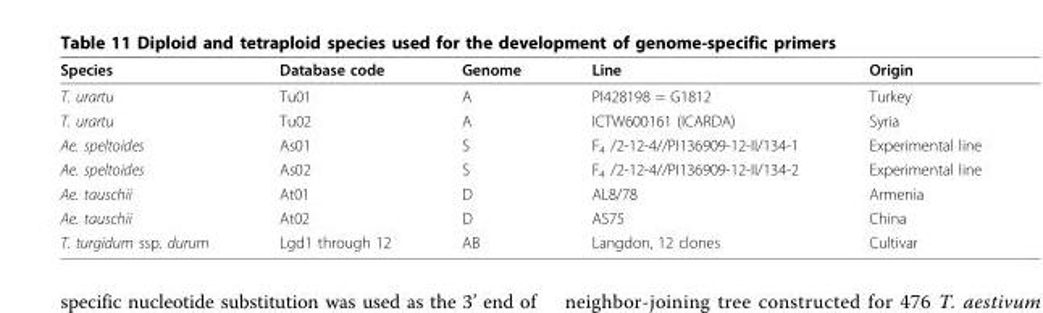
<table><thead><tr><td>Species</td><td>Database code</td><td>Genome</td><td>Line</td><td>Origin</td></tr></thead><tbody><tr><td>T. urartu</td><td>Tu01</td><td>A</td><td>PI428198 = G1812</td><td>Turkey</td></tr><tr><td>T. urartu</td><td>Tu02</td><td>A</td><td>ICTW600161 (ICARDA)</td><td>Syria</td></tr><tr><td>Ae. speltoides</td><td>As01</td><td>S</td><td>F<sub>4</sub> /2-12-4//PI136909-12-II/134-1</td><td>Experimental line</td></tr><tr><td>Ae. speltoides</td><td>As02</td><td>S</td><td>F<sub>4</sub> /2-12-4//PI136909-12-II/134-2</td><td>Experimental line</td></tr><tr><td>Ae. tauschii</td><td>At01</td><td>D</td><td>AL8/78</td><td>Armenia</td></tr><tr><td>Ae. tauschii</td><td>At02</td><td>D</td><td>AS75</td><td>China</td></tr><tr><td>T. turgidum ssp. durum</td><td>Lgd1 through 12</td><td>AB</td><td>Langdon, 12 clones</td><td>Cultivar</td></tr></tbody></table>